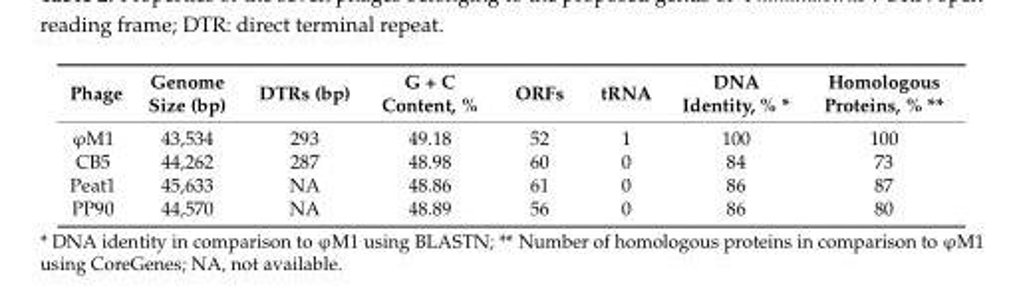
<table><thead><tr><td>Phage</td><td>Genome Size (bp)</td><td>DTRs (bp)</td><td>G + C Content, %</td><td>ORFs</td><td>tRNA</td><td>DNA Identity, % *</td><td>Homologous Proteins, % **</td></tr></thead><tbody><tr><td>ϕM1</td><td>43,534</td><td>293</td><td>49.18</td><td>52</td><td>1</td><td>100</td><td>100</td></tr><tr><td>CB5</td><td>44,262</td><td>287</td><td>48.98</td><td>60</td><td>0</td><td>84</td><td>73</td></tr><tr><td>Peat1</td><td>45,633</td><td>NA</td><td>48.86</td><td>61</td><td>0</td><td>86</td><td>87</td></tr><tr><td>PP90</td><td>44,570</td><td>NA</td><td>48.89</td><td>56</td><td>0</td><td>86</td><td>80</td></tr></tbody></table>